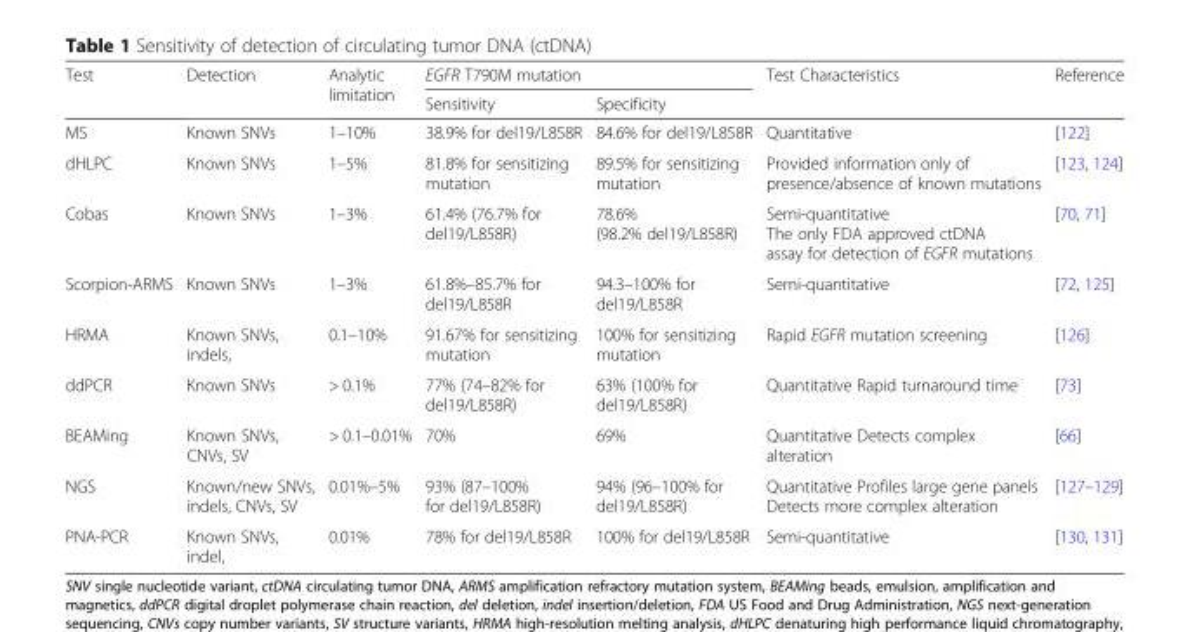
<table><thead><tr><td rowspan="2">Test</td><td rowspan="2">Detection</td><td rowspan="2">Analytic limitation</td><td colspan="2">EGFR T790M mutation</td><td rowspan="2">Test Characteristics</td><td rowspan="2">Reference</td></tr><tr><td>Sensitivity</td><td>Specificity</td></tr></thead><tbody><tr><td>MS</td><td>Known SNVs</td><td>1–10%</td><td>38.9% for del19/L858R</td><td>84.6% for del19/L858R</td><td>Quantitative</td><td>[122]</td></tr><tr><td>dHLPC</td><td>Known SNVs</td><td>1–5%</td><td>81.8% for sensitizing mutation</td><td>89.5% for sensitizing mutation</td><td>Provided information only of presence/absence of known mutations</td><td>[123, 124]</td></tr><tr><td>Cobas</td><td>Known SNVs</td><td>1–3%</td><td>61.4% (76.7% for del19/L858R)</td><td>78.6% (98.2% del19/L858R)</td><td>Semi-quantitative The only FDA approved ctDNA assay for detection of EGFR mutations</td><td>[70, 71]</td></tr><tr><td>Scorpion-ARMS</td><td>Known SNVs</td><td>1–3%</td><td>61.8%–85.7% for del19/L858R</td><td>94.3–100% for del19/L858R</td><td>Semi-quantitative</td><td>[72, 125]</td></tr><tr><td>HRMA</td><td>Known SNVs, indels,</td><td>0.1–10%</td><td>91.67% for sensitizing mutation</td><td>100% for sensitizing mutation</td><td>Rapid EGFR mutation screening</td><td>[126]</td></tr><tr><td>ddPCR</td><td>Known SNVs</td><td>&gt; 0.1%</td><td>77% (74–82% for del19/L858R)</td><td>63% (100% for del19/L858R)</td><td>Quantitative Rapid turnaround time</td><td>[73]</td></tr><tr><td>BEAMing</td><td>Known SNVs, CNVs, SV</td><td>&gt; 0.1–0.01%</td><td>70%</td><td>69%</td><td>Quantitative Detects complex alteration</td><td>[66]</td></tr><tr><td>NGS</td><td>Known/new SNVs, indels, CNVs, SV</td><td>0.01%–5%</td><td>93% (87–100% for del19/L858R)</td><td>94% (96–100% for del19/L858R)</td><td>Quantitative Profiles large gene panels Detects more complex alteration</td><td>[127–129]</td></tr><tr><td>PNA-PCR</td><td>Known SNVs, indel,</td><td>0.01%</td><td>78% for del19/L858R</td><td>100% for del19/L858R</td><td>Semi-quantitative</td><td>[130, 131]</td></tr></tbody></table>